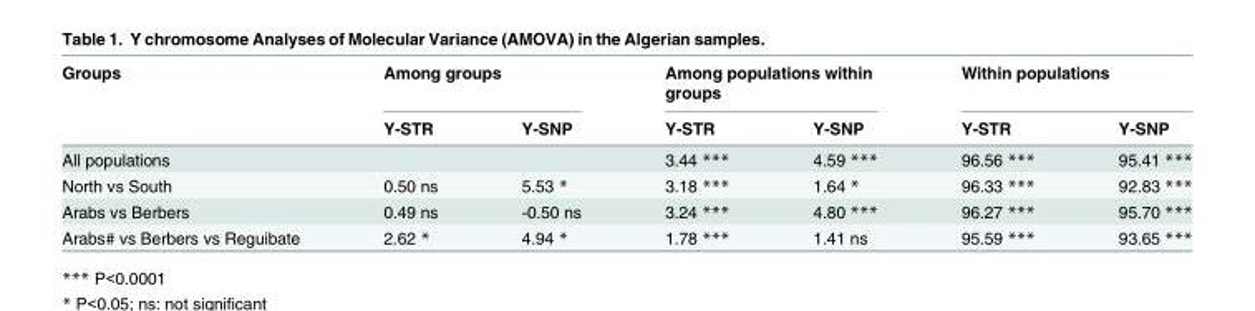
<table><thead><tr><td rowspan="2">Groups</td><td colspan="2">Among groups</td><td colspan="2">Among populations within groups</td><td colspan="2">Within populations</td></tr><tr><td>Y-STR</td><td>Y-SNP</td><td>Y-STR</td><td>Y-SNP</td><td>Y-STR</td><td>Y-SNP</td></tr></thead><tbody><tr><td>All populations</td><td></td><td></td><td>3.44 ***</td><td>4.59 ***</td><td>96.56 ***</td><td>95.41 ***</td></tr><tr><td>North vs South</td><td>0.50 ns</td><td>5.53 *</td><td>3.18 ***</td><td>1.64 *</td><td>96.33 ***</td><td>92.83 ***</td></tr><tr><td>Arabs vs Berbers</td><td>0.49 ns</td><td>-0.50 ns</td><td>3.24 ***</td><td>4.80 ***</td><td>96.27 ***</td><td>95.70 ***</td></tr><tr><td>Arabs# vs Berbers vs Reguibate</td><td>2.62 *</td><td>4.94 *</td><td>1.78 ***</td><td>1.41 ns</td><td>95.59 ***</td><td>93.65 ***</td></tr></tbody></table>